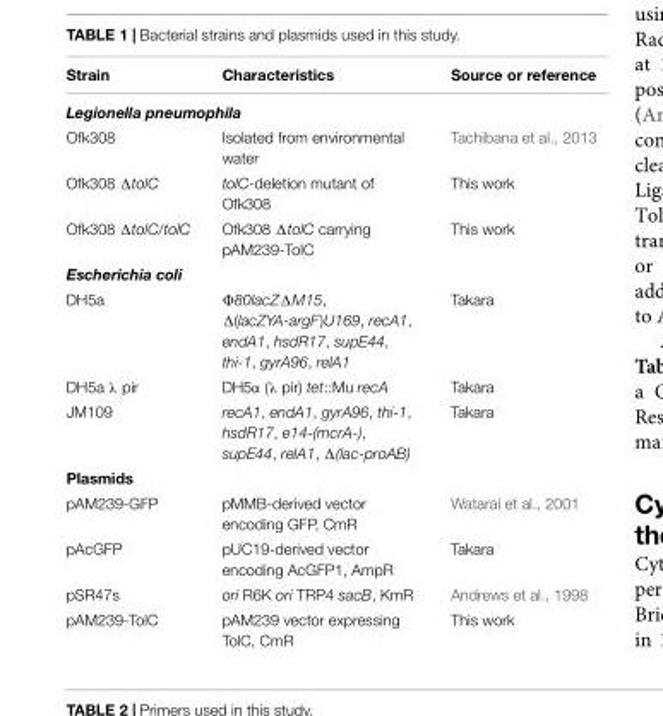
<table><thead><tr><td>Strain</td><td>Characteristics</td><td>Source or reference</td></tr></thead><tbody><tr><td colspan="3">Legionella pneumophila</td></tr><tr><td>Ofk308</td><td>Isolated from environmental water</td><td>Tachibana et al., 2013</td></tr><tr><td>Ofk308 ΔtolC</td><td>tolC-deletion mutant of Ofk308</td><td>This work</td></tr><tr><td>Ofk308 ΔtolC/tolC</td><td>Ofk308 ΔtolC carrying pAM239-TolC</td><td>This work</td></tr><tr><td colspan="3">Escherichia coli</td></tr><tr><td>DH5a</td><td>Φ80lacZΔM15, Δ(lacZYA-argF)U169, recA1, endA1, hsdR17, supE44, thi-1, gyrA96, relA1</td><td>Takara</td></tr><tr><td>DH5a λ pir</td><td>DH5α (λ pir) tet::Mu recA</td><td>Takara</td></tr><tr><td>JM109</td><td>recA1, endA1, gyrA96, thi-1, hsdR17, e14-(mcrA-), supE44, relA1, Δ(lac-proAB)</td><td>Takara</td></tr><tr><td colspan="3">Plasmids</td></tr><tr><td>pAM239-GFP</td><td>pMMB-derived vector encoding GFP, CmR</td><td>Watarai et al., 2001</td></tr><tr><td>pAcGFP</td><td>pUC19-derived vector encoding AcGFP1, AmpR</td><td>Takara</td></tr><tr><td>pSR47s</td><td>ori R6K ori TRP4 sacB, KmR</td><td>Andrews et al., 1998</td></tr><tr><td>pAM239-TolC</td><td>pAM239 vector expressing TolC, CmR</td><td>This work</td></tr></tbody></table>